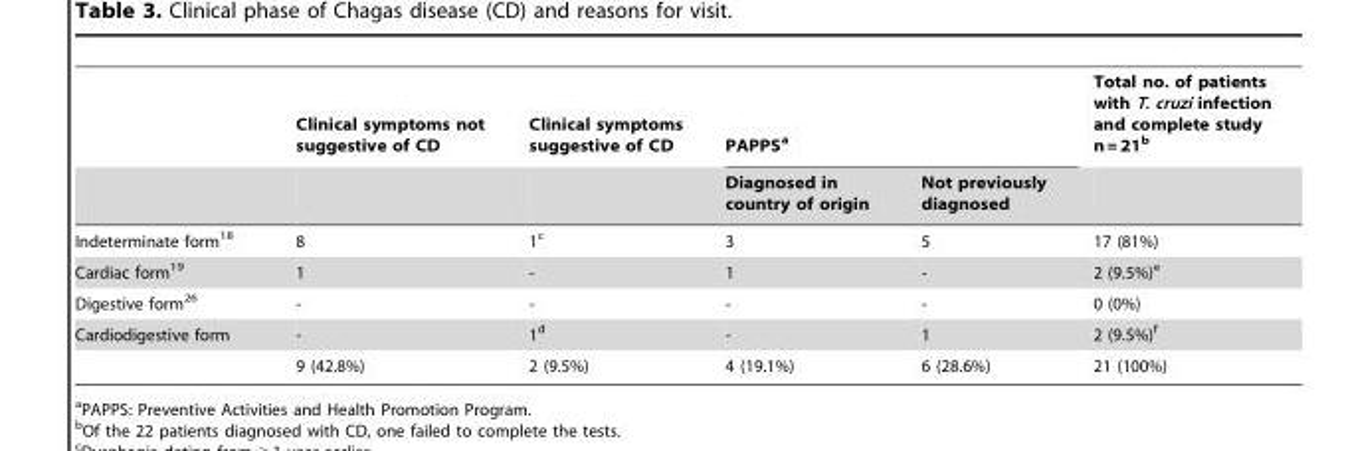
<table><thead><tr><td rowspan="2"></td><td rowspan="2">Clinical symptoms not suggestive of CD</td><td rowspan="2">Clinical symptoms suggestive of CD</td><td colspan="2">PAPPS<sup>a</sup></td><td rowspan="2">Total no. of patients with T. cruzi infection and complete study n = 21<sup>b</sup></td></tr><tr><td>Diagnosed in country of origin</td><td>Not previously diagnosed</td></tr></thead><tbody><tr><td>Indeterminate form<sup>18</sup></td><td>8</td><td>1<sup>c</sup></td><td>3</td><td>5</td><td>17 (81%)</td></tr><tr><td>Cardiac form<sup>19</sup></td><td>1</td><td>-</td><td>1</td><td>-</td><td>2 (9.5%)<sup>e</sup></td></tr><tr><td>Digestive form<sup>26</sup></td><td>-</td><td>-</td><td>-</td><td>-</td><td>0 (0%)</td></tr><tr><td rowspan="2">Cardiodigestive form</td><td>-</td><td>1<sup>d</sup></td><td>-</td><td>1</td><td>2 (9.5%)<sup>f</sup></td></tr><tr><td>9 (42.8%)</td><td>2 (9.5%)</td><td>4 (19.1%)</td><td>6 (28.6%)</td><td>21 (100%)</td></tr></tbody></table>